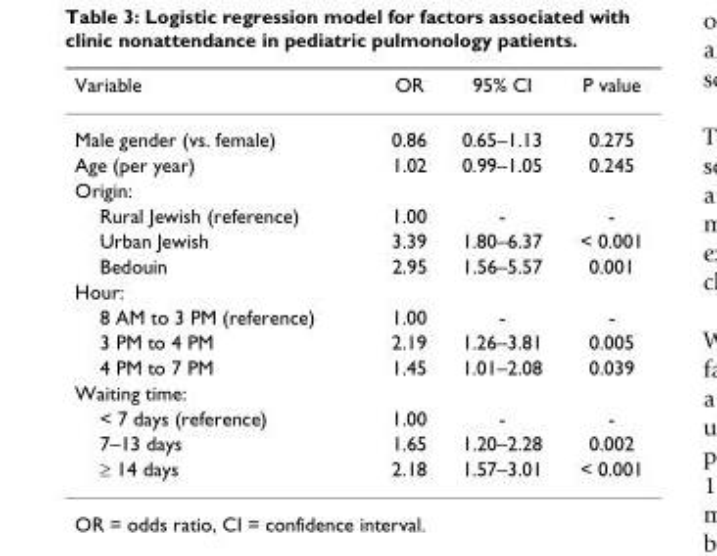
<table><thead><tr><td>Variable</td><td>OR</td><td>95% CI</td><td>P value</td></tr></thead><tbody><tr><td>Male gender (vs. female)</td><td>0.86</td><td>0.65–1.13</td><td>0.275</td></tr><tr><td>Age (per year)</td><td>1.02</td><td>0.99–1.05</td><td>0.245</td></tr><tr><td colspan="4">Origin:</td></tr><tr><td>Rural Jewish (reference)</td><td>1.00</td><td>-</td><td>-</td></tr><tr><td>Urban Jewish</td><td>3.39</td><td>1.80–6.37</td><td>&lt; 0.001</td></tr><tr><td>Bedouin</td><td>2.95</td><td>1.56–5.57</td><td>0.001</td></tr><tr><td colspan="4">Hour:</td></tr><tr><td>8 AM to 3 PM (reference)</td><td>1.00</td><td>-</td><td>-</td></tr><tr><td>3 PM to 4 PM</td><td>2.19</td><td>1.26–3.81</td><td>0.005</td></tr><tr><td>4 PM to 7 PM</td><td>1.45</td><td>1.01–2.08</td><td>0.039</td></tr><tr><td colspan="4">Waiting time:</td></tr><tr><td>&lt; 7 days (reference)</td><td>1.00</td><td>-</td><td>-</td></tr><tr><td>7–13 days</td><td>1.65</td><td>1.20–2.28</td><td>0.002</td></tr><tr><td>≥ 14 days</td><td>2.18</td><td>1.57–3.01</td><td>&lt; 0.001</td></tr></tbody></table>